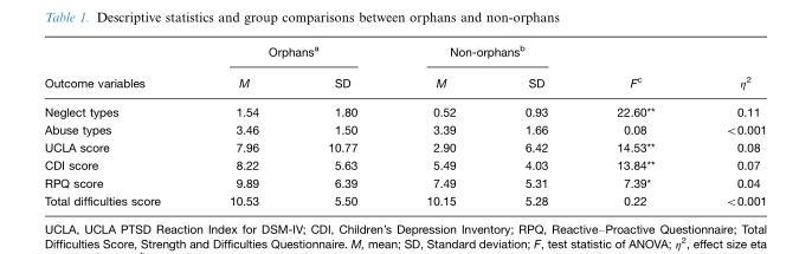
<table><thead><tr><td rowspan="2">Outcome variables</td><td colspan="2">Orphans<sup>a</sup></td><td colspan="2">Non-orphans<sup>b</sup></td><td rowspan="2">Fc</td><td rowspan="2">η<sup>2</sup></td></tr><tr><td>M</td><td>SD</td><td>M</td><td>SD</td></tr></thead><tbody><tr><td>Neglect types</td><td>1.54</td><td>1.80</td><td>0.52</td><td>0.93</td><td>22.60**</td><td>0.11</td></tr><tr><td>Abuse types</td><td>3.46</td><td>1.50</td><td>3.39</td><td>1.66</td><td>0.08</td><td>&lt;0.001</td></tr><tr><td>UCLA score</td><td>7.96</td><td>10.77</td><td>2.90</td><td>6.42</td><td>14.53**</td><td>0.08</td></tr><tr><td>CDI score</td><td>8.22</td><td>5.63</td><td>5.49</td><td>4.03</td><td>13.84**</td><td>0.07</td></tr><tr><td>RPQ score</td><td>9.89</td><td>6.39</td><td>7.49</td><td>5.31</td><td>7.39*</td><td>0.04</td></tr><tr><td>Total difficulties score</td><td>10.53</td><td>5.50</td><td>10.15</td><td>5.28</td><td>0.22</td><td>&lt;0.001</td></tr></tbody></table>